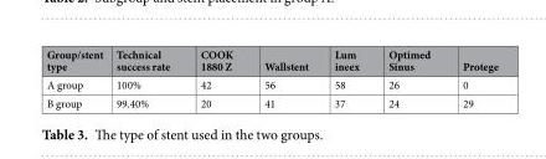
<table><thead><tr><td>Group/stent type</td><td>Technical success rate</td><td>COOK 1880 Z</td><td>Wallstent</td><td>Lum ineex</td><td>Optimed Sinus</td><td>Protege</td></tr></thead><tbody><tr><td>A group</td><td>100%</td><td>42</td><td>56</td><td>58</td><td>26</td><td>0</td></tr><tr><td>B group</td><td>99.40%</td><td>20</td><td>41</td><td>37</td><td>24</td><td>29</td></tr></tbody></table>